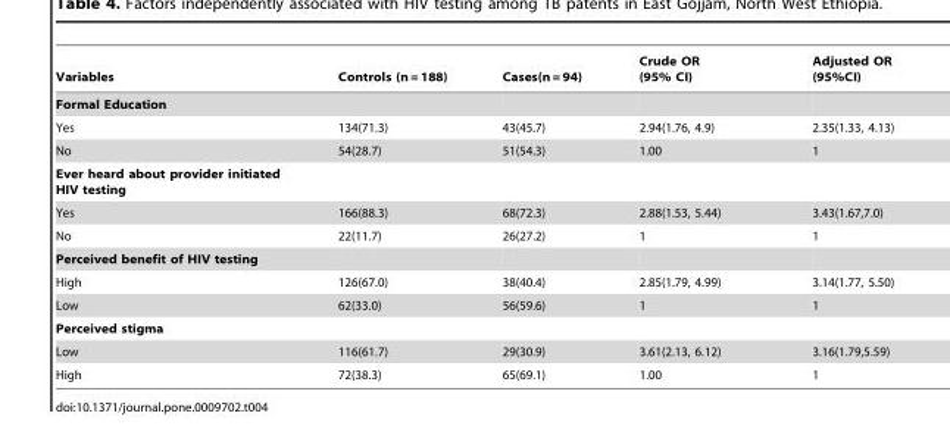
<table><thead><tr><td>Variables</td><td>Controls (n = 188)</td><td>Cases(n = 94)</td><td>Crude OR (95% CI)</td><td>Adjusted OR (95%CI)</td></tr></thead><tbody><tr><td colspan="5">Formal Education</td></tr><tr><td>Yes</td><td>134(71.3)</td><td>43(45.7)</td><td>2.94(1.76, 4.9)</td><td>2.35(1.33, 4.13)</td></tr><tr><td>No</td><td>54(28.7)</td><td>51(54.3)</td><td>1.00</td><td>1</td></tr><tr><td colspan="5">Ever heard about provider initiated HIV testing</td></tr><tr><td>Yes</td><td>166(88.3)</td><td>68(72.3)</td><td>2.88(1.53, 5.44)</td><td>3.43(1.67,7.0)</td></tr><tr><td>No</td><td>22(11.7)</td><td>26(27.2)</td><td>1</td><td>1</td></tr><tr><td colspan="5">Perceived benefit of HIV testing</td></tr><tr><td>High</td><td>126(67.0)</td><td>38(40.4)</td><td>2.85(1.79, 4.99)</td><td>3.14(1.77, 5.50)</td></tr><tr><td>Low</td><td>62(33.0)</td><td>56(59.6)</td><td>1</td><td>1</td></tr><tr><td colspan="5">Perceived stigma</td></tr><tr><td>Low</td><td>116(61.7)</td><td>29(30.9)</td><td>3.61(2.13, 6.12)</td><td>3.16(1.79,5.59)</td></tr><tr><td>High</td><td>72(38.3)</td><td>65(69.1)</td><td>1.00</td><td>1</td></tr></tbody></table>